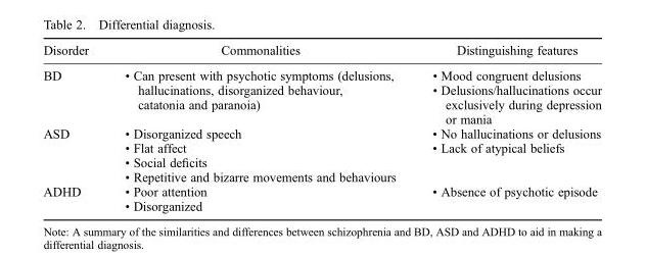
<table><thead><tr><td>Disorder</td><td>Commonalities</td><td>Distinguishing features</td></tr></thead><tbody><tr><td rowspan="2">BD</td><td rowspan="2">• Can present with psychotic symptoms (delusions, hallucinations, disorganized behaviour, catatonia and paranoia)</td><td>• Mood congruent delusions</td></tr><tr><td>• Delusions/hallucinations occur exclusively during depression or mania</td></tr><tr><td rowspan="4">ASD</td><td>• Disorganized speech</td><td>• No hallucinations or delusions</td></tr><tr><td>• Flat affect</td><td>• Lack of atypical beliefs</td></tr><tr><td>• Social deficits</td><td></td></tr><tr><td>• Repetitive and bizarre movements and behaviours</td><td></td></tr><tr><td rowspan="2">ADHD</td><td>• Poor attention</td><td rowspan="2">• Absence of psychotic episode</td></tr><tr><td>• Disorganized</td></tr></tbody></table>